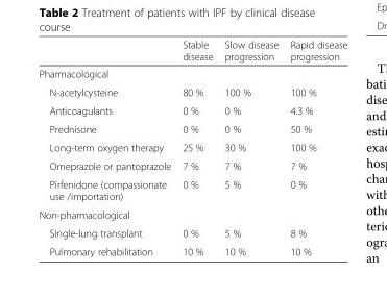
<table><thead><tr><td></td><td>Stable disease</td><td>Slow disease progression</td><td>Rapid disease progression</td></tr></thead><tbody><tr><td colspan="4">Pharmacological</td></tr><tr><td>N-acetylcysteine</td><td>80 %</td><td>100 %</td><td>100 %</td></tr><tr><td>Anticoagulants</td><td>0 %</td><td>0 %</td><td>4.3 %</td></tr><tr><td>Prednisone</td><td>0 %</td><td>0 %</td><td>50 %</td></tr><tr><td>Long-term oxygen therapy</td><td>25 %</td><td>30 %</td><td>100 %</td></tr><tr><td>Omeprazole or pantoprazole</td><td>7 %</td><td>7 %</td><td>7 %</td></tr><tr><td>Pirfenidone (compassionate use /importation)</td><td>0 %</td><td>5 %</td><td>0 %</td></tr><tr><td colspan="4">Non-pharmacological</td></tr><tr><td>Single-lung transplant</td><td>0 %</td><td>5 %</td><td>8 %</td></tr><tr><td>Pulmonary rehabilitation</td><td>10 %</td><td>10 %</td><td>10 %</td></tr></tbody></table>